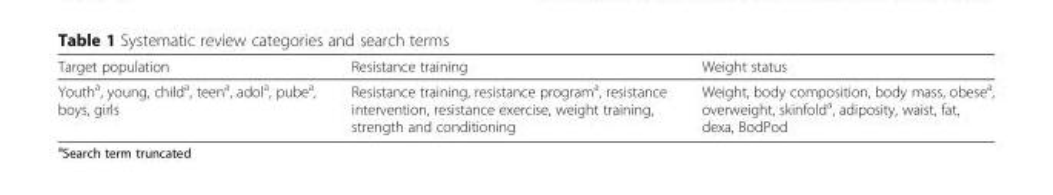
<table><thead><tr><td>Target population</td><td>Resistance training</td><td>Weight status</td></tr></thead><tbody><tr><td>Youth<sup>a</sup>, young, child<sup>a</sup>, teen<sup>a</sup>, adol<sup>a</sup>, pube<sup>a</sup>, boys, girls</td><td>Resistance training, resistance program<sup>a</sup>, resistance intervention, resistance exercise, weight training, strength and conditioning</td><td>Weight, body composition, body mass, obese<sup>a</sup>, overweight, skinfold<sup>a</sup>, adiposity, waist, fat, dexa, BodPod</td></tr></tbody></table>